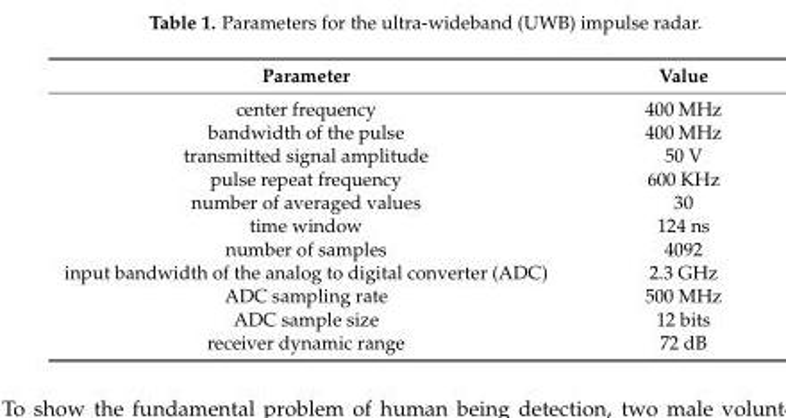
<table><thead><tr><td>Parameter</td><td>Value</td></tr></thead><tbody><tr><td>center frequency</td><td>400 MHz</td></tr><tr><td>bandwidth of the pulse</td><td>400 MHz</td></tr><tr><td>transmitted signal amplitude</td><td>50 V</td></tr><tr><td>pulse repeat frequency</td><td>600 KHz</td></tr><tr><td>number of averaged values</td><td>30</td></tr><tr><td>time window</td><td>124 ns</td></tr><tr><td>number of samples</td><td>4092</td></tr><tr><td>input bandwidth of the analog to digital converter (ADC)</td><td>2.3 GHz</td></tr><tr><td>ADC sampling rate</td><td>500 MHz</td></tr><tr><td>ADC sample size</td><td>12 bits</td></tr><tr><td>receiver dynamic range</td><td>72 dB</td></tr></tbody></table>